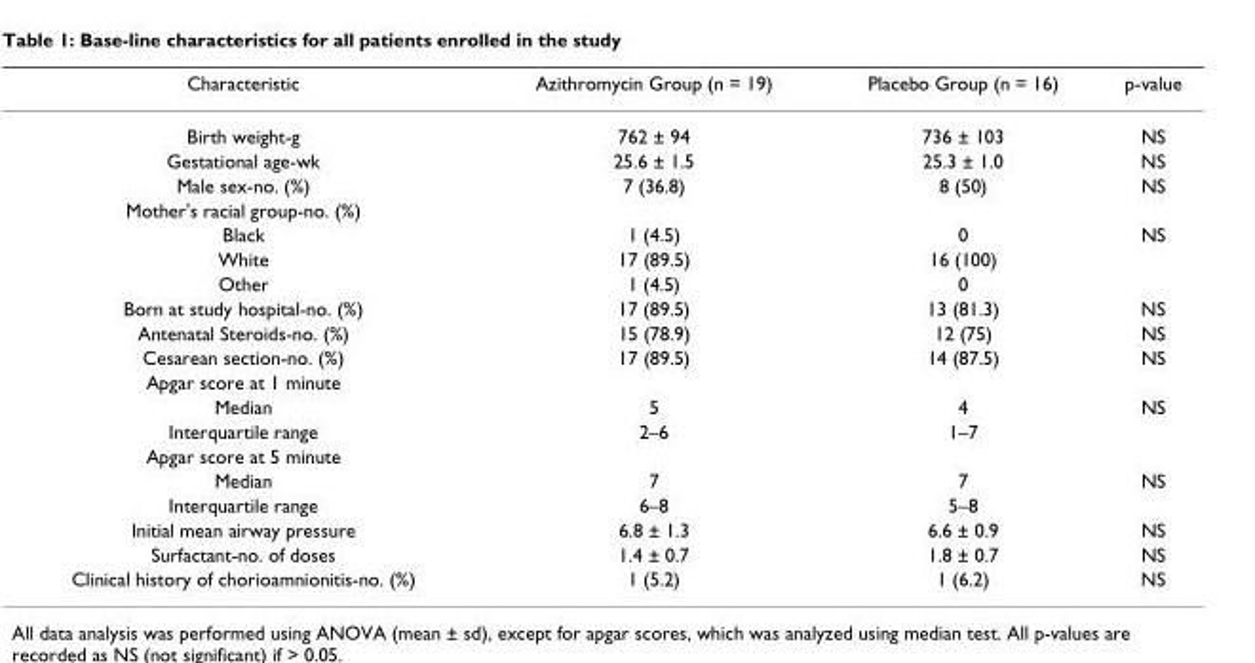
<table><thead><tr><td>Characteristic</td><td>Azithromycin Group (n = 19)</td><td>Placebo Group (n = 16)</td><td>p-value</td></tr></thead><tbody><tr><td>Birth weight-g</td><td>762 ± 94</td><td>736 ± 103</td><td>NS</td></tr><tr><td>Gestational age-wk</td><td>25.6 ± 1.5</td><td>25.3 ± 1.0</td><td>NS</td></tr><tr><td>Male sex-no. (%)</td><td>7 (36.8)</td><td>8 (50)</td><td>NS</td></tr><tr><td colspan="4">Mother&#x27;s racial group-no. (%)</td></tr><tr><td>Black</td><td>1 (4.5)</td><td>0</td><td>NS</td></tr><tr><td>White</td><td>17 (89.5)</td><td>16 (100)</td><td></td></tr><tr><td>Other</td><td>1 (4.5)</td><td>0</td><td></td></tr><tr><td>Born at study hospital-no. (%)</td><td>17 (89.5)</td><td>13 (81.3)</td><td>NS</td></tr><tr><td>Antenatal Steroids-no. (%)</td><td>15 (78.9)</td><td>12 (75)</td><td>NS</td></tr><tr><td>Cesarean section-no. (%)</td><td>17 (89.5)</td><td>14 (87.5)</td><td>NS</td></tr><tr><td colspan="4">Apgar score at 1 minute</td></tr><tr><td>Median</td><td>5</td><td>4</td><td>NS</td></tr><tr><td>Interquartile range</td><td>2–6</td><td>1–7</td><td></td></tr><tr><td colspan="4">Apgar score at 5 minute</td></tr><tr><td>Median</td><td>7</td><td>7</td><td>NS</td></tr><tr><td>Interquartile range</td><td>6–8</td><td>5–8</td><td></td></tr><tr><td>Initial mean airway pressure</td><td>6.8 ± 1.3</td><td>6.6 ± 0.9</td><td>NS</td></tr><tr><td>Surfactant-no. of doses</td><td>1.4 ± 0.7</td><td>1.8 ± 0.7</td><td>NS</td></tr><tr><td>Clinical history of chorioamnionitis-no. (%)</td><td>1 (5.2)</td><td>1 (6.2)</td><td>NS</td></tr></tbody></table>